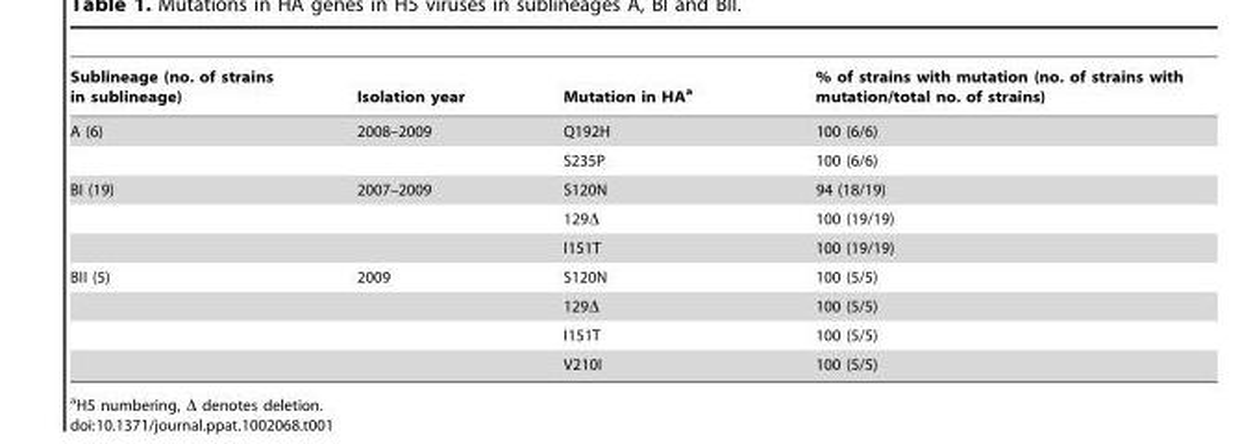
<table><thead><tr><td>Sublineage (no. of strains in sublineage)</td><td>Isolation year</td><td>Mutation in HA<sup>a</sup></td><td>% of strains with mutation (no. of strains with mutation/total no. of strains)</td></tr></thead><tbody><tr><td rowspan="2">A (6)</td><td>2008–2009</td><td>Q192H</td><td>100 (6/6)</td></tr><tr><td></td><td>S235P</td><td>100 (6/6)</td></tr><tr><td rowspan="3">BI (19)</td><td>2007–2009</td><td>S120N</td><td>94 (18/19)</td></tr><tr><td></td><td>129Δ</td><td>100 (19/19)</td></tr><tr><td></td><td>I151T</td><td>100 (19/19)</td></tr><tr><td rowspan="4">BII (5)</td><td>2009</td><td>S120N</td><td>100 (5/5)</td></tr><tr><td></td><td>129Δ</td><td>100 (5/5)</td></tr><tr><td></td><td>I151T</td><td>100 (5/5)</td></tr><tr><td></td><td>V210I</td><td>100 (5/5)</td></tr></tbody></table>